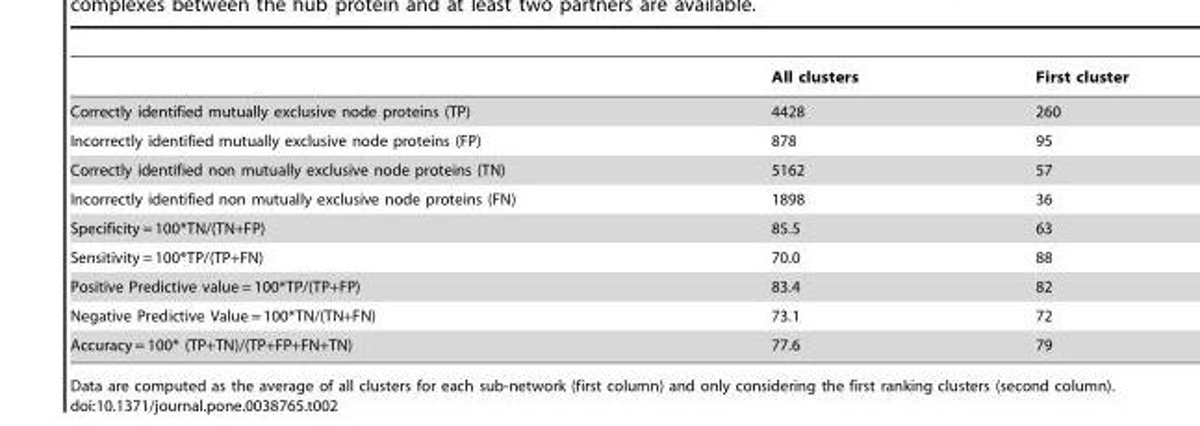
<table><thead><tr><td></td><td>All clusters</td><td>First cluster</td></tr></thead><tbody><tr><td>Correctly identified mutually exclusive node proteins (TP)</td><td>4428</td><td>260</td></tr><tr><td>Incorrectly identified mutually exclusive node proteins (FP)</td><td>878</td><td>95</td></tr><tr><td>Correctly identified non mutually exclusive node proteins (TN)</td><td>5162</td><td>57</td></tr><tr><td>Incorrectly identified non mutually exclusive node proteins (FN)</td><td>1898</td><td>36</td></tr><tr><td>Specificity = 100*TN/(TN+FP)</td><td>85.5</td><td>63</td></tr><tr><td>Sensitivity = 100*TP/(TP+FN)</td><td>70.0</td><td>88</td></tr><tr><td>Positive Predictive value = 100*TP/(TP+FP)</td><td>83.4</td><td>82</td></tr><tr><td>Negative Predictive Value = 100*TN/(TN+FN)</td><td>73.1</td><td>72</td></tr><tr><td>Accuracy = 100* (TP+TN)/(TP+FP+FN+TN)</td><td>77.6</td><td>79</td></tr></tbody></table>